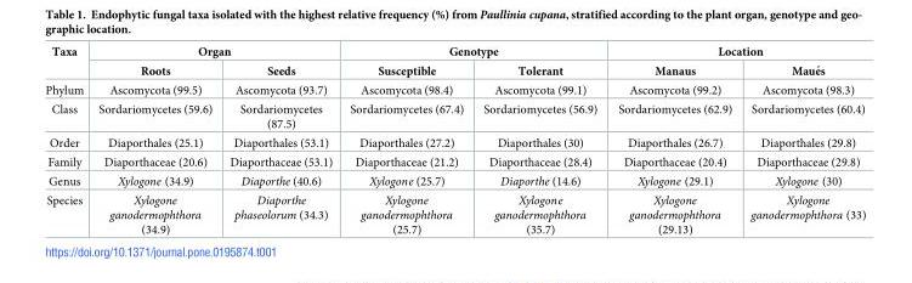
<table><thead><tr><td rowspan="2">Taxa</td><td colspan="2">Organ</td><td colspan="2">Genotype</td><td colspan="2">Location</td></tr><tr><td>Roots</td><td>Seeds</td><td>Susceptible</td><td>Tolerant</td><td>Manaus</td><td>Maue´s</td></tr></thead><tbody><tr><td>Phylum</td><td>Ascomycota (99.5)</td><td>Ascomycota (93.7)</td><td>Ascomycota (98.4)</td><td>Ascomycota (99.1)</td><td>Ascomycota (99.2)</td><td>Ascomycota (98.3)</td></tr><tr><td>Class</td><td>Sordariomycetes (59.6)</td><td>Sordariomycetes (87.5)</td><td>Sordariomycetes (67.4)</td><td>Sordariomycetes (56.9)</td><td>Sordariomycetes (62.9)</td><td>Sordariomycetes (60.4)</td></tr><tr><td>Order</td><td>Diaporthales (25.1)</td><td>Diaporthales (53.1)</td><td>Diaporthales (27.2)</td><td>Diaporthales (30)</td><td>Diaporthales (26.7)</td><td>Diaporthales (29.8)</td></tr><tr><td>Family</td><td>Diaporthaceae (20.6)</td><td>Diaporthaceae (53.1)</td><td>Diaporthaceae (21.2)</td><td>Diaporthaceae (28.4)</td><td>Diaporthaceae (20.4)</td><td>Diaporthaceae (29.8)</td></tr><tr><td>Genus</td><td>Xylogone (34.9)</td><td>Diaporthe (40.6)</td><td>Xylogone (25.7)</td><td>Diaporthe (14.6)</td><td>Xylogone (29.1)</td><td>Xylogone (30)</td></tr><tr><td>Species</td><td>Xylogone ganodermophthora (34.9)</td><td>Diaporthe phaseolorum (34.3)</td><td>Xylogone ganodermophthora (25.7)</td><td>Xylogone ganodermophthora (35.7)</td><td>Xylogone ganodermophthora (29.13)</td><td>Xylogone ganodermophthora (33)</td></tr></tbody></table>